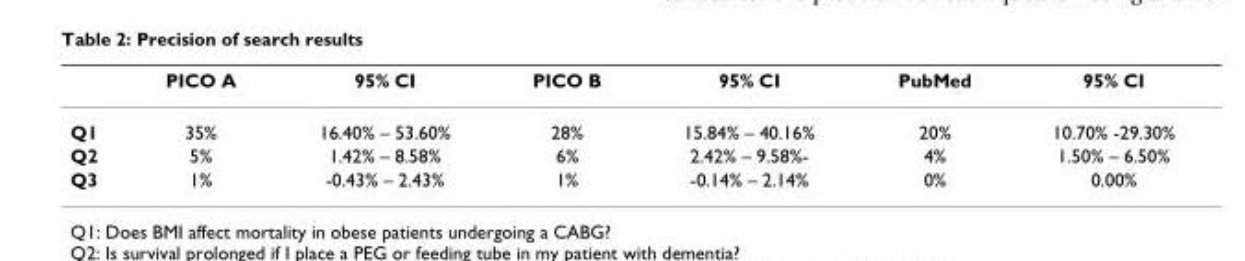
<table><thead><tr><td></td><td>PICO A</td><td>95% CI</td><td>PICO B</td><td>95% CI</td><td>PubMed</td><td>95% CI</td></tr></thead><tbody><tr><td>Q1</td><td>35%</td><td>16.40% – 53.60%</td><td>28%</td><td>15.84% – 40.16%</td><td>20%</td><td>10.70% -29.30%</td></tr><tr><td>Q2</td><td>5%</td><td>1.42% – 8.58%</td><td>6%</td><td>2.42% – 9.58%-</td><td>4%</td><td>1.50% – 6.50%</td></tr><tr><td>Q3</td><td>1%</td><td>-0.43% – 2.43%</td><td>1%</td><td>-0.14% – 2.14%</td><td>0%</td><td>0.00%</td></tr></tbody></table>